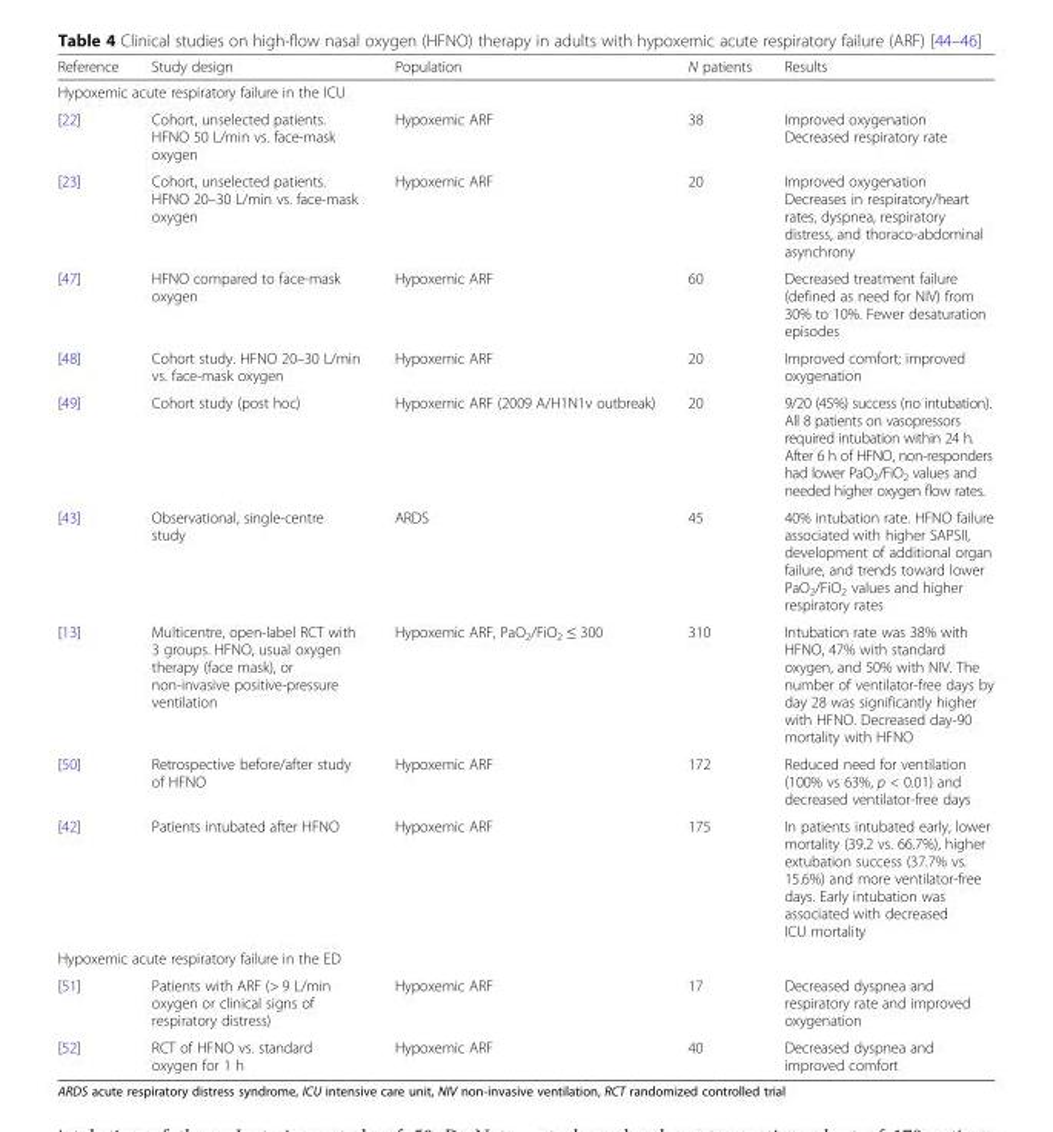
<table><thead><tr><td>Reference</td><td>Study design</td><td>Population</td><td>N patients</td><td>Results</td></tr></thead><tbody><tr><td colspan="5">Hypoxemic acute respiratory failure in the ICU</td></tr><tr><td>[22]</td><td>Cohort, unselected patients. HFNO 50 L/min vs. face-mask oxygen</td><td>Hypoxemic ARF</td><td>38</td><td>Improved oxygenation Decreased respiratory rate</td></tr><tr><td>[23]</td><td>Cohort, unselected patients. HFNO 20–30 L/min vs. face-mask oxygen</td><td>Hypoxemic ARF</td><td>20</td><td>Improved oxygenation Decreases in respiratory/heart rates, dyspnea, respiratory distress, and thoraco-abdominal asynchrony</td></tr><tr><td>[47]</td><td>HFNO compared to face-mask oxygen</td><td>Hypoxemic ARF</td><td>60</td><td>Decreased treatment failure (defined as need for NIV) from 30% to 10%. Fewer desaturation episodes</td></tr><tr><td>[48]</td><td>Cohort study. HFNO 20–30 L/min vs. face-mask oxygen</td><td>Hypoxemic ARF</td><td>20</td><td>Improved comfort; improved oxygenation</td></tr><tr><td>[49]</td><td>Cohort study (post hoc)</td><td>Hypoxemic ARF (2009 A/H1N1v outbreak)</td><td>20</td><td>9/20 (45%) success (no intubation). All 8 patients on vasopressors required intubation within 24 h. After 6 h of HFNO, non-responders had lower PaO<sub>2</sub>/FiO<sub>2</sub> values and needed higher oxygen flow rates.</td></tr><tr><td>[43]</td><td>Observational, single-centre study</td><td>ARDS</td><td>45</td><td>40% intubation rate. HFNO failure associated with higher SAPSII, development of additional organ failure, and trends toward lower PaO<sub>2</sub>/FiO<sub>2</sub> values and higher respiratory rates</td></tr><tr><td>[13]</td><td>Multicentre, open-label RCT with 3 groups. HFNO, usual oxygen therapy (face mask), or non-invasive positive-pressure ventilation</td><td>Hypoxemic ARF, PaO<sub>2</sub>/FiO<sub>2</sub> ≤ 300</td><td>310</td><td>Intubation rate was 38% with HFNO, 47% with standard oxygen, and 50% with NIV. The number of ventilator-free days by day 28 was significantly higher with HFNO. Decreased day-90 mortality with HFNO</td></tr><tr><td>[50]</td><td>Retrospective before/after study of HFNO</td><td>Hypoxemic ARF</td><td>172</td><td>Reduced need for ventilation (100% vs 63%, p &lt; 0.01) and decreased ventilator-free days</td></tr><tr><td>[42]</td><td>Patients intubated after HFNO</td><td>Hypoxemic ARF</td><td>175</td><td>In patients intubated early, lower mortality (39.2 vs. 66.7%), higher extubation success (37.7% vs. 15.6%) and more ventilator-free days. Early intubation was associated with decreased ICU mortality</td></tr><tr><td colspan="5">Hypoxemic acute respiratory failure in the ED</td></tr><tr><td>[51]</td><td>Patients with ARF (&gt; 9 L/min oxygen or clinical signs of respiratory distress)</td><td>Hypoxemic ARF</td><td>17</td><td>Decreased dyspnea and respiratory rate and improved oxygenation</td></tr><tr><td>[52]</td><td>RCT of HFNO vs. standard oxygen for 1 h</td><td>Hypoxemic ARF</td><td>40</td><td>Decreased dyspnea and improved comfort</td></tr></tbody></table>